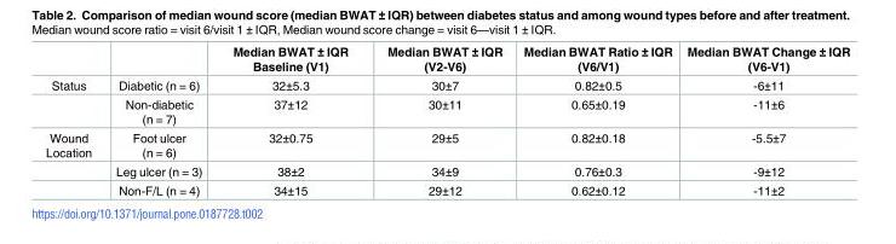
<table><thead><tr><td></td><td></td><td>Median BWAT ± IQR Baseline (V1)</td><td>Median BWAT ± IQR (V2-V6)</td><td>Median BWAT Ratio ± IQR (V6/V1)</td><td>Median BWAT Change ± IQR (V6-V1)</td></tr></thead><tbody><tr><td rowspan="2">Status</td><td>Diabetic (n = 6)</td><td>32±5.3</td><td>30±7</td><td>0.82±0.5</td><td>-6±11</td></tr><tr><td>Non-diabetic (n = 7)</td><td>37±12</td><td>30±11</td><td>0.65±0.19</td><td>-11±6</td></tr><tr><td rowspan="3">Wound Location</td><td>Foot ulcer (n = 6)</td><td>32±0.75</td><td>29±5</td><td>0.82±0.18</td><td>-5.5±7</td></tr><tr><td>Leg ulcer (n = 3)</td><td>38±2</td><td>34±9</td><td>0.76±0.3</td><td>-9±12</td></tr><tr><td>Non-F/L (n = 4)</td><td>34±15</td><td>29±12</td><td>0.62±0.12</td><td>-11±2</td></tr></tbody></table>